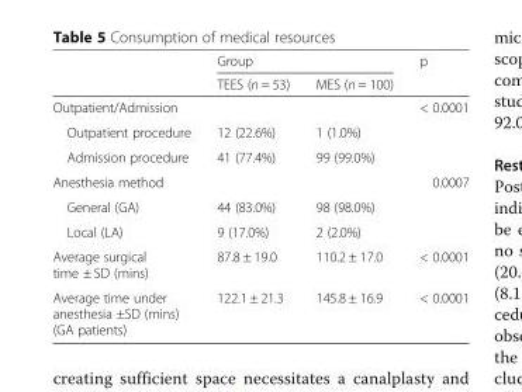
<table><thead><tr><td rowspan="2"></td><td colspan="2">Group</td><td rowspan="2">p</td></tr><tr><td>TEES (n = 53)</td><td>MES (n = 100)</td></tr></thead><tbody><tr><td>Outpatient/Admission</td><td></td><td></td><td>&lt; 0.0001</td></tr><tr><td>Outpatient procedure</td><td>12 (22.6%)</td><td>1 (1.0%)</td><td></td></tr><tr><td>Admission procedure</td><td>41 (77.4%)</td><td>99 (99.0%)</td><td></td></tr><tr><td>Anesthesia method</td><td></td><td></td><td>0.0007</td></tr><tr><td>General (GA)</td><td>44 (83.0%)</td><td>98 (98.0%)</td><td></td></tr><tr><td>Local (LA)</td><td>9 (17.0%)</td><td>2 (2.0%)</td><td></td></tr><tr><td>Average surgical time ± SD (mins)</td><td>87.8 ± 19.0</td><td>110.2 ± 17.0</td><td>&lt; 0.0001</td></tr><tr><td>Average time under anesthesia ±SD (mins) (GA patients)</td><td>122.1 ± 21.3</td><td>145.8 ± 16.9</td><td>&lt; 0.0001</td></tr></tbody></table>